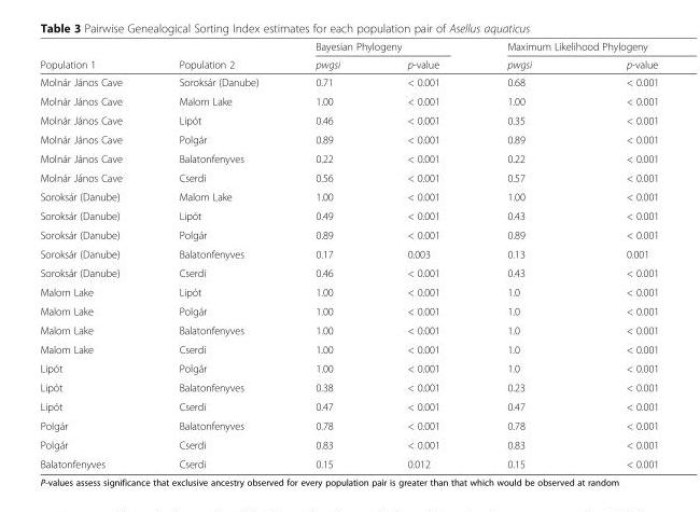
<table><thead><tr><td rowspan="2">Population 1</td><td rowspan="2">Population 2</td><td colspan="2">Bayesian Phylogeny</td><td colspan="2">Maximum Likelihood Phylogeny</td></tr><tr><td>pwgsi</td><td>p-value</td><td>pwgsi</td><td>p-value</td></tr></thead><tbody><tr><td>Molnár János Cave</td><td>Soroksár (Danube)</td><td>0.71</td><td>&lt; 0.001</td><td>0.68</td><td>&lt; 0.001</td></tr><tr><td>Molnár János Cave</td><td>Malom Lake</td><td>1.00</td><td>&lt; 0.001</td><td>1.00</td><td>&lt; 0.001</td></tr><tr><td>Molnár János Cave</td><td>Lipót</td><td>0.46</td><td>&lt; 0.001</td><td>0.35</td><td>&lt; 0.001</td></tr><tr><td>Molnár János Cave</td><td>Polgár</td><td>0.89</td><td>&lt; 0.001</td><td>0.89</td><td>&lt; 0.001</td></tr><tr><td>Molnár János Cave</td><td>Balatonfenyves</td><td>0.22</td><td>&lt; 0.001</td><td>0.22</td><td>&lt; 0.001</td></tr><tr><td>Molnár János Cave</td><td>Cserdi</td><td>0.56</td><td>&lt; 0.001</td><td>0.57</td><td>&lt; 0.001</td></tr><tr><td>Soroksár (Danube)</td><td>Malom Lake</td><td>1.00</td><td>&lt; 0.001</td><td>1.00</td><td>&lt; 0.001</td></tr><tr><td>Soroksár (Danube)</td><td>Lipót</td><td>0.49</td><td>&lt; 0.001</td><td>0.43</td><td>&lt; 0.001</td></tr><tr><td>Soroksár (Danube)</td><td>Polgár</td><td>0.89</td><td>&lt; 0.001</td><td>0.89</td><td>&lt; 0.001</td></tr><tr><td>Soroksár (Danube)</td><td>Balatonfenyves</td><td>0.17</td><td>0.003</td><td>0.13</td><td>0.001</td></tr><tr><td>Soroksár (Danube)</td><td>Cserdi</td><td>0.46</td><td>&lt; 0.001</td><td>0.43</td><td>&lt; 0.001</td></tr><tr><td>Malom Lake</td><td>Lipót</td><td>1.00</td><td>&lt; 0.001</td><td>1.0</td><td>&lt; 0.001</td></tr><tr><td>Malom Lake</td><td>Polgár</td><td>1.00</td><td>&lt; 0.001</td><td>1.0</td><td>&lt; 0.001</td></tr><tr><td>Malom Lake</td><td>Balatonfenyves</td><td>1.00</td><td>&lt; 0.001</td><td>1.0</td><td>&lt; 0.001</td></tr><tr><td>Malom Lake</td><td>Cserdi</td><td>1.00</td><td>&lt; 0.001</td><td>1.0</td><td>&lt; 0.001</td></tr><tr><td>Lipót</td><td>Polgár</td><td>1.00</td><td>&lt; 0.001</td><td>1.0</td><td>&lt; 0.001</td></tr><tr><td>Lipót</td><td>Balatonfenyves</td><td>0.38</td><td>&lt; 0.001</td><td>0.23</td><td>&lt; 0.001</td></tr><tr><td>Lipót</td><td>Cserdi</td><td>0.47</td><td>&lt; 0.001</td><td>0.47</td><td>&lt; 0.001</td></tr><tr><td>Polgár</td><td>Balatonfenyves</td><td>0.78</td><td>&lt; 0.001</td><td>0.78</td><td>&lt; 0.001</td></tr><tr><td>Polgár</td><td>Cserdi</td><td>0.83</td><td>&lt; 0.001</td><td>0.83</td><td>&lt; 0.001</td></tr><tr><td>Balatonfenyves</td><td>Cserdi</td><td>0.15</td><td>0.012</td><td>0.15</td><td>&lt; 0.001</td></tr></tbody></table>